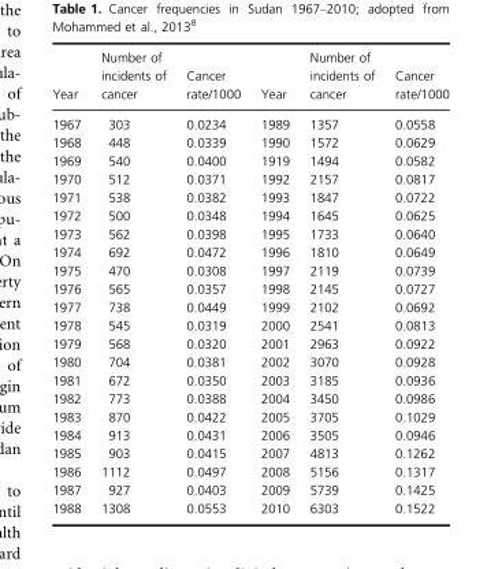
<table><thead><tr><td>Year</td><td>Number of incidents of cancer</td><td>Cancer rate/1000</td><td>Year</td><td>Number of incidents of cancer</td><td>Cancer rate/1000</td></tr></thead><tbody><tr><td>1967</td><td>303</td><td>0.0234</td><td>1989</td><td>1357</td><td>0.0558</td></tr><tr><td>1968</td><td>448</td><td>0.0339</td><td>1990</td><td>1572</td><td>0.0629</td></tr><tr><td>1969</td><td>540</td><td>0.0400</td><td>1919</td><td>1494</td><td>0.0582</td></tr><tr><td>1970</td><td>512</td><td>0.0371</td><td>1992</td><td>2157</td><td>0.0817</td></tr><tr><td>1971</td><td>538</td><td>0.0382</td><td>1993</td><td>1847</td><td>0.0722</td></tr><tr><td>1972</td><td>500</td><td>0.0348</td><td>1994</td><td>1645</td><td>0.0625</td></tr><tr><td>1973</td><td>562</td><td>0.0398</td><td>1995</td><td>1733</td><td>0.0640</td></tr><tr><td>1974</td><td>692</td><td>0.0472</td><td>1996</td><td>1810</td><td>0.0649</td></tr><tr><td>1975</td><td>470</td><td>0.0308</td><td>1997</td><td>2119</td><td>0.0739</td></tr><tr><td>1976</td><td>565</td><td>0.0357</td><td>1998</td><td>2145</td><td>0.0727</td></tr><tr><td>1977</td><td>738</td><td>0.0449</td><td>1999</td><td>2102</td><td>0.0692</td></tr><tr><td>1978</td><td>545</td><td>0.0319</td><td>2000</td><td>2541</td><td>0.0813</td></tr><tr><td>1979</td><td>568</td><td>0.0320</td><td>2001</td><td>2963</td><td>0.0922</td></tr><tr><td>1980</td><td>704</td><td>0.0381</td><td>2002</td><td>3070</td><td>0.0928</td></tr><tr><td>1981</td><td>672</td><td>0.0350</td><td>2003</td><td>3185</td><td>0.0936</td></tr><tr><td>1982</td><td>773</td><td>0.0388</td><td>2004</td><td>3450</td><td>0.0986</td></tr><tr><td>1983</td><td>870</td><td>0.0422</td><td>2005</td><td>3705</td><td>0.1029</td></tr><tr><td>1984</td><td>913</td><td>0.0431</td><td>2006</td><td>3505</td><td>0.0946</td></tr><tr><td>1985</td><td>903</td><td>0.0415</td><td>2007</td><td>4813</td><td>0.1262</td></tr><tr><td>1986</td><td>1112</td><td>0.0497</td><td>2008</td><td>5156</td><td>0.1317</td></tr><tr><td>1987</td><td>927</td><td>0.0403</td><td>2009</td><td>5739</td><td>0.1425</td></tr><tr><td>1988</td><td>1308</td><td>0.0553</td><td>2010</td><td>6303</td><td>0.1522</td></tr></tbody></table>